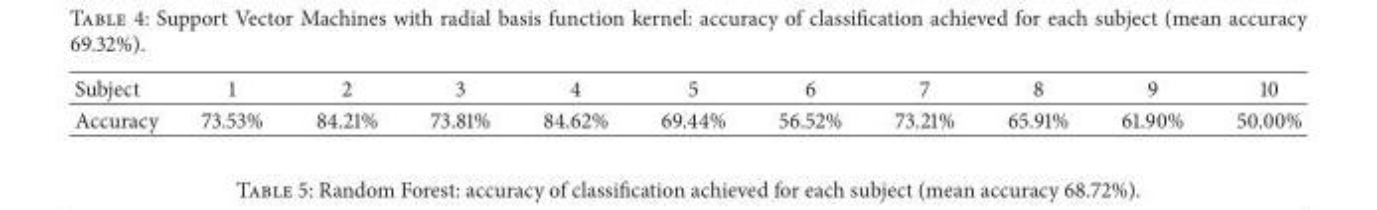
<table><thead><tr><td>Subject</td><td>1</td><td>2</td><td>3</td><td>4</td><td>5</td><td>6</td><td>7</td><td>8</td><td>9</td><td>10</td></tr></thead><tbody><tr><td>Accuracy</td><td>73.53%</td><td>84.21%</td><td>73.81%</td><td>84.62%</td><td>69.44%</td><td>56.52%</td><td>73.21%</td><td>65.91%</td><td>61.90%</td><td>50.00%</td></tr></tbody></table>